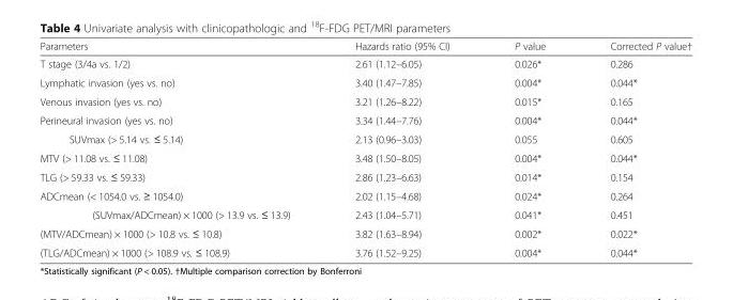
<table><thead><tr><td>Parameters</td><td>Hazards ratio (95% CI)</td><td>P value</td><td>Corrected P value†</td></tr></thead><tbody><tr><td>T stage (3/4a vs. 1/2)</td><td>2.61 (1.12–6.05)</td><td>0.026*</td><td>0.286</td></tr><tr><td>Lymphatic invasion (yes vs. no)</td><td>3.40 (1.47–7.85)</td><td>0.004*</td><td>0.044*</td></tr><tr><td>Venous invasion (yes vs. no)</td><td>3.21 (1.26–8.22)</td><td>0.015*</td><td>0.165</td></tr><tr><td>Perineural invasion (yes vs. no)</td><td>3.34 (1.44–7.76)</td><td>0.004*</td><td>0.044*</td></tr><tr><td>SUVmax (&gt; 5.14 vs. ≤ 5.14)</td><td>2.13 (0.96–3.03)</td><td>0.055</td><td>0.605</td></tr><tr><td>MTV (&gt; 11.08 vs. ≤ 11.08)</td><td>3.48 (1.50–8.05)</td><td>0.004*</td><td>0.044*</td></tr><tr><td>TLG (&gt; 59.33 vs. ≤ 59.33)</td><td>2.86 (1.23–6.63)</td><td>0.014*</td><td>0.154</td></tr><tr><td>ADCmean (&lt; 1054.0 vs. ≥ 1054.0)</td><td>2.02 (1.15–4.68)</td><td>0.024*</td><td>0.264</td></tr><tr><td>(SUVmax/ADCmean) × 1000 (&gt; 13.9 vs. ≤ 13.9)</td><td>2.43 (1.04–5.71)</td><td>0.041*</td><td>0.451</td></tr><tr><td>(MTV/ADCmean) × 1000 (&gt; 10.8 vs. ≤ 10.8)</td><td>3.82 (1.63–8.94)</td><td>0.002*</td><td>0.022*</td></tr><tr><td>(TLG/ADCmean) × 1000 (&gt; 108.9 vs. ≤ 108.9)</td><td>3.76 (1.52–9.25)</td><td>0.004*</td><td>0.044*</td></tr></tbody></table>